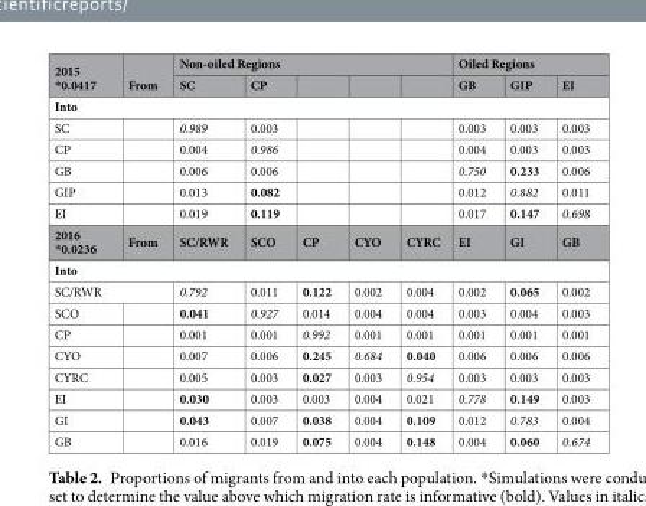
<table><thead><tr><td rowspan="2">2015 *0.0417</td><td rowspan="2">From</td><td colspan="5">Non-oiled Regions</td><td colspan="3">Oiled Regions</td></tr><tr><td>SC</td><td>CP</td><td></td><td></td><td></td><td>GB</td><td>GIP</td><td>EI</td></tr></thead><tbody><tr><td colspan="10">Into</td></tr><tr><td>SC</td><td></td><td>0.989</td><td>0.003</td><td></td><td></td><td></td><td>0.003</td><td>0.003</td><td>0.003</td></tr><tr><td>CP</td><td></td><td>0.004</td><td>0.986</td><td></td><td></td><td></td><td>0.004</td><td>0.003</td><td>0.003</td></tr><tr><td>GB</td><td></td><td>0.006</td><td>0.006</td><td></td><td></td><td></td><td>0.750</td><td>0.233</td><td>0.006</td></tr><tr><td>GIP</td><td></td><td>0.013</td><td>0.082</td><td></td><td></td><td></td><td>0.012</td><td>0.882</td><td>0.011</td></tr><tr><td>EI</td><td></td><td>0.019</td><td>0.119</td><td></td><td></td><td></td><td>0.017</td><td>0.147</td><td>0.698</td></tr><tr><td>2016 *0.0236</td><td>From</td><td>SC/RWR</td><td>SCO</td><td>CP</td><td>CYO</td><td>CYRC</td><td>EI</td><td>GI</td><td>GB</td></tr><tr><td colspan="10">Into</td></tr><tr><td colspan="2">SC/RWR</td><td>0.792</td><td>0.011</td><td>0.122</td><td>0.002</td><td>0.004</td><td>0.002</td><td>0.065</td><td>0.002</td></tr><tr><td>SCO</td><td></td><td>0.041</td><td>0.927</td><td>0.014</td><td>0.004</td><td>0.004</td><td>0.003</td><td>0.004</td><td>0.003</td></tr><tr><td>CP</td><td></td><td>0.001</td><td>0.001</td><td>0.992</td><td>0.001</td><td>0.001</td><td>0.001</td><td>0.001</td><td>0.001</td></tr><tr><td>CYO</td><td></td><td>0.007</td><td>0.006</td><td>0.245</td><td>0.684</td><td>0.040</td><td>0.006</td><td>0.006</td><td>0.006</td></tr><tr><td>CYRC</td><td></td><td>0.005</td><td>0.003</td><td>0.027</td><td>0.003</td><td>0.954</td><td>0.003</td><td>0.003</td><td>0.003</td></tr><tr><td>EI</td><td></td><td>0.030</td><td>0.003</td><td>0.003</td><td>0.004</td><td>0.021</td><td>0.778</td><td>0.149</td><td>0.003</td></tr><tr><td>GI</td><td></td><td>0.043</td><td>0.007</td><td>0.038</td><td>0.004</td><td>0.109</td><td>0.012</td><td>0.783</td><td>0.004</td></tr><tr><td>GB</td><td></td><td>0.016</td><td>0.019</td><td>0.075</td><td>0.004</td><td>0.148</td><td>0.004</td><td>0.060</td><td>0.674</td></tr></tbody></table>